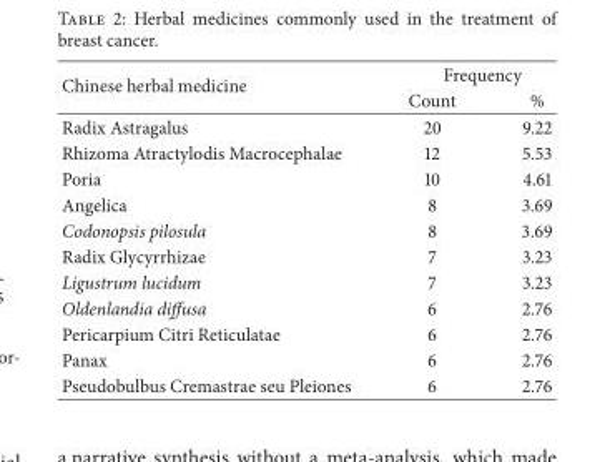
<table><thead><tr><td rowspan="2">Chinese herbal medicine</td><td colspan="2">Frequency</td></tr><tr><td>Count</td><td>%</td></tr></thead><tbody><tr><td>Radix Astragalus</td><td>20</td><td>9.22</td></tr><tr><td>Rhizoma Atractylodis Macrocephalae</td><td>12</td><td>5.53</td></tr><tr><td>Poria</td><td>10</td><td>4.61</td></tr><tr><td>Angelica</td><td>8</td><td>3.69</td></tr><tr><td>Codonopsis pilosula</td><td>8</td><td>3.69</td></tr><tr><td>Radix Glycyrrhizae</td><td>7</td><td>3.23</td></tr><tr><td>Ligustrum lucidum</td><td>7</td><td>3.23</td></tr><tr><td>Oldenlandia diffusa</td><td>6</td><td>2.76</td></tr><tr><td>Pericarpium Citri Reticulatae</td><td>6</td><td>2.76</td></tr><tr><td>Panax</td><td>6</td><td>2.76</td></tr><tr><td>Pseudobulbus Cremastrae seu Pleiones</td><td>6</td><td>2.76</td></tr></tbody></table>